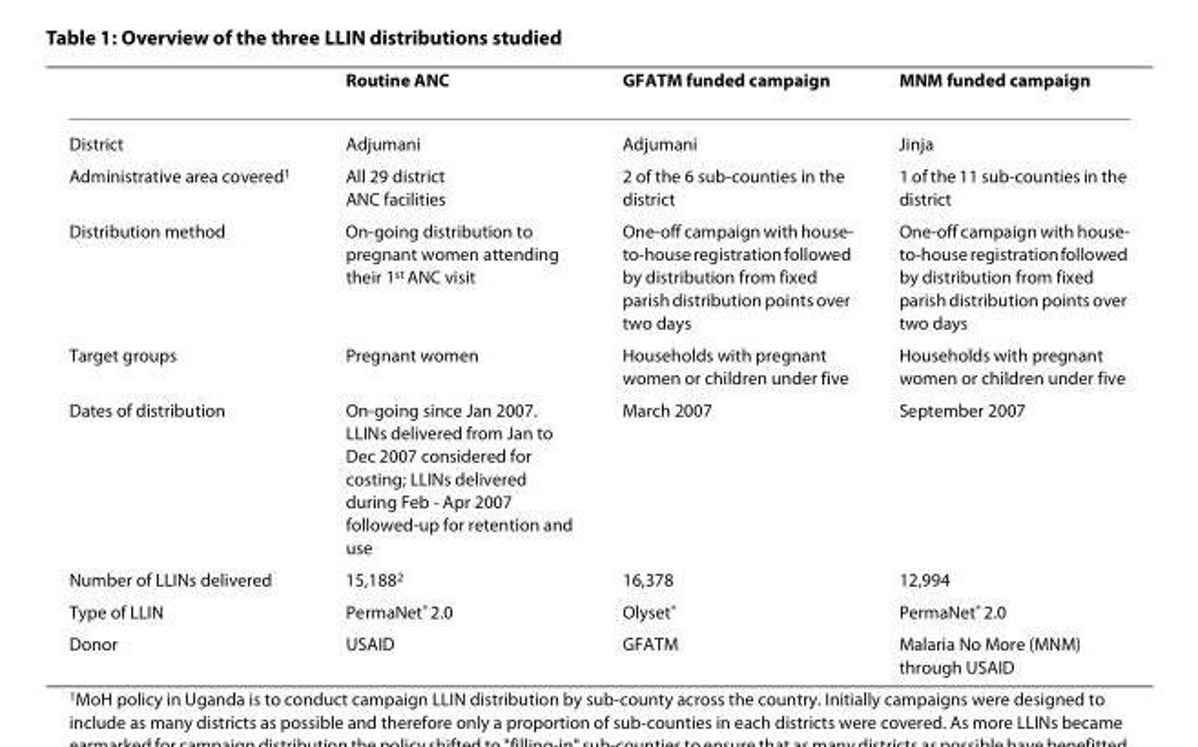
<table><thead><tr><td></td><td>Routine ANC</td><td>GFATM funded campaign</td><td>MNM funded campaign</td></tr></thead><tbody><tr><td>District</td><td>Adjumani</td><td>Adjumani</td><td>Jinja</td></tr><tr><td>Administrative area covered<sup>1</sup></td><td>All 29 district ANC facilities</td><td>2 of the 6 sub-counties in the district</td><td>1 of the 11 sub-counties in the district</td></tr><tr><td>Distribution method</td><td>On-going distribution to pregnant women attending their 1<sup>st</sup> ANC visit</td><td>One-off campaign with house- to-house registration followed by distribution from fixed parish distribution points over two days</td><td>One-off campaign with house- to-house registration followed by distribution from fixed parish distribution points over two days</td></tr><tr><td>Target groups</td><td>Pregnant women</td><td>Households with pregnant women or children under five</td><td>Households with pregnant women or children under five</td></tr><tr><td>Dates of distribution</td><td>On-going since Jan 2007. LLINs delivered from Jan to Dec 2007 considered for costing; LLINs delivered during Feb - Apr 2007 followed-up for retention and use</td><td>March 2007</td><td>September 2007</td></tr><tr><td>Number of LLINs delivered</td><td>15,188<sup>2</sup></td><td>16,378</td><td>12,994</td></tr><tr><td>Type of LLIN</td><td>PermaNet<sup>®</sup> 2.0</td><td>Olyset<sup>®</sup></td><td>PermaNet<sup>®</sup> 2.0</td></tr><tr><td>Donor</td><td>USAID</td><td>GFATM</td><td>Malaria No More (MNM) through USAID</td></tr></tbody></table>